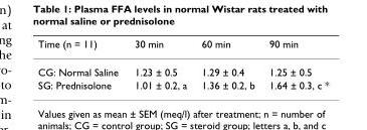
<table><thead><tr><td>Time (n = 11)</td><td>30 min</td><td>60 min</td><td>90 min</td></tr></thead><tbody><tr><td>CG: Normal Saline</td><td>1.23 ± 0.5</td><td>1.29 ± 0.4</td><td>1.25 ± 0.5</td></tr><tr><td>SG: Prednisolone</td><td>1.01 ± 0.2, a</td><td>1.36 ± 0.2, b</td><td>1.64 ± 0.3, c *</td></tr></tbody></table>